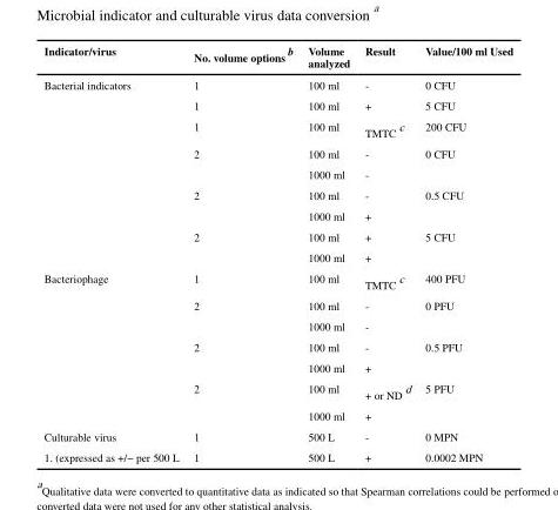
<table><thead><tr><td>Indicator/virus</td><td>No. volume options <sup>b</sup></td><td>Volume analyzed</td><td>Result</td><td>Value/100 ml Used</td></tr></thead><tbody><tr><td rowspan="9">Bacterial indicators</td><td>1</td><td>100 ml</td><td>-</td><td>0 CFU</td></tr><tr><td>1</td><td>100 ml</td><td>+</td><td>5 CFU</td></tr><tr><td>1</td><td>100 ml</td><td>TMTC <sup>c</sup></td><td>200 CFU</td></tr><tr><td>2</td><td>100 ml</td><td>-</td><td>0 CFU</td></tr><tr><td></td><td>1000 ml</td><td>-</td><td></td></tr><tr><td>2</td><td>100 ml</td><td>-</td><td>0.5 CFU</td></tr><tr><td></td><td>1000 ml</td><td>+</td><td></td></tr><tr><td>2</td><td>100 ml</td><td>+</td><td>5 CFU</td></tr><tr><td></td><td>1000 ml</td><td>+</td><td></td></tr><tr><td rowspan="7">Bacteriophage</td><td>1</td><td>100 ml</td><td>TMTC <sup>c</sup></td><td>400 PFU</td></tr><tr><td>2</td><td>100 ml</td><td>-</td><td>0 PFU</td></tr><tr><td></td><td>1000 ml</td><td>-</td><td></td></tr><tr><td>2</td><td>100 ml</td><td>-</td><td>0.5 PFU</td></tr><tr><td></td><td>1000 ml</td><td>+</td><td></td></tr><tr><td>2</td><td>100 ml</td><td>+ or ND <sup>d</sup></td><td>5 PFU</td></tr><tr><td></td><td>1000 ml</td><td>+</td><td></td></tr><tr><td>Culturable virus</td><td>1</td><td>500 L</td><td>-</td><td>0 MPN</td></tr><tr><td>1. (expressed as +/− per 500 L</td><td>1</td><td>500 L</td><td>+</td><td>0.0002 MPN</td></tr></tbody></table>